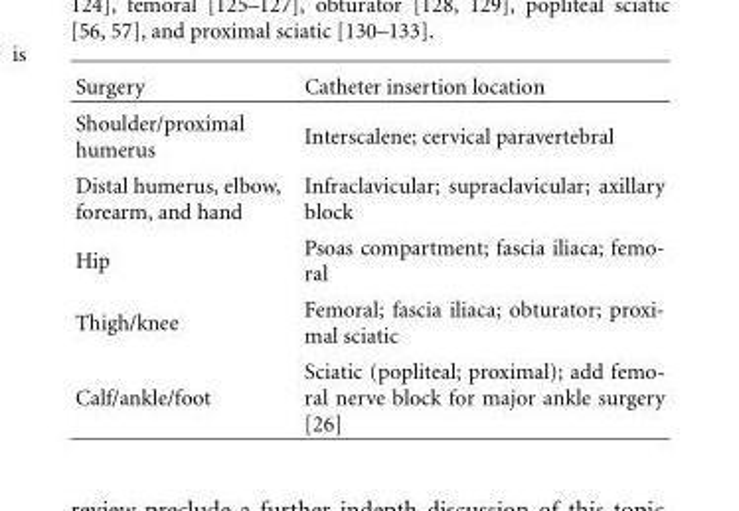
<table><thead><tr><td>Surgery</td><td>Catheter insertion location</td></tr></thead><tbody><tr><td>Shoulder/proximal humerus</td><td>Interscalene; cervical paravertebral</td></tr><tr><td>Distal humerus, elbow, forearm, and hand</td><td>Infraclavicular; supraclavicular; axillary block</td></tr><tr><td>Hip</td><td>Psoas compartment; fascia iliaca; femo- ral</td></tr><tr><td>Thigh/knee</td><td>Femoral; fascia iliaca; obturator; proxi- mal sciatic</td></tr><tr><td>Calf/ankle/foot</td><td>Sciatic (popliteal; proximal); add femo- ral nerve block for major ankle surgery [26]</td></tr></tbody></table>